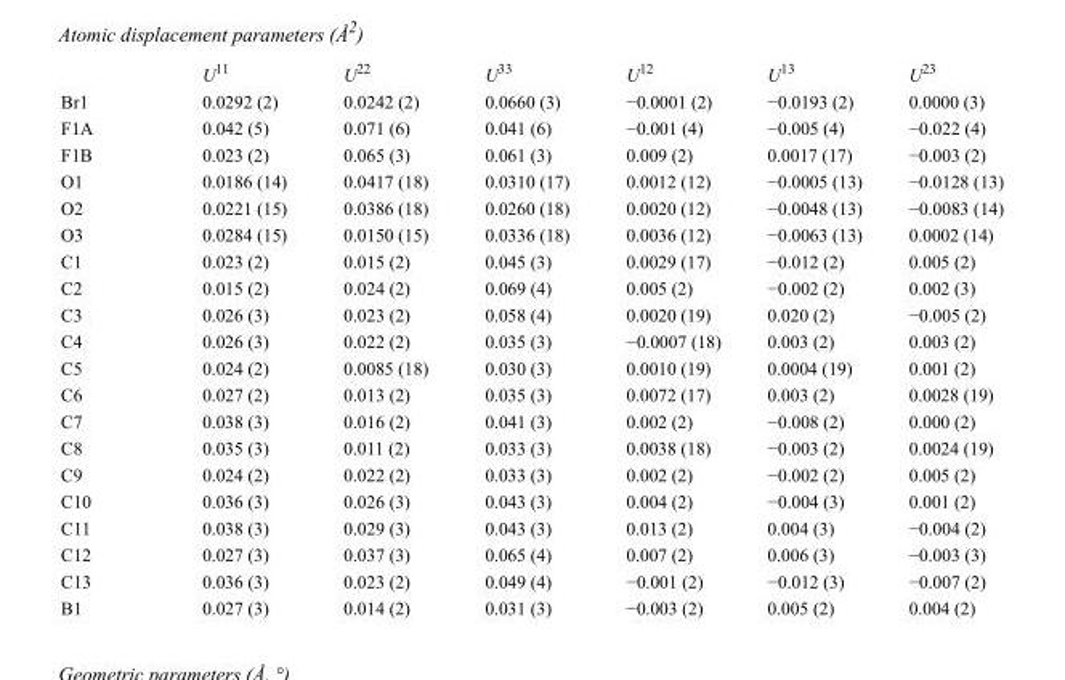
<table><thead><tr><td></td><td>U<sup>11</sup></td><td>U<sup>22</sup></td><td>U<sup>33</sup></td><td>U<sup>12</sup></td><td>U<sup>13</sup></td><td>U<sup>23</sup></td></tr></thead><tbody><tr><td>Br1</td><td>0.0292 (2)</td><td>0.0242 (2)</td><td>0.0660 (3)</td><td>−0.0001 (2)</td><td>−0.0193 (2)</td><td>0.0000 (3)</td></tr><tr><td>F1A</td><td>0.042 (5)</td><td>0.071 (6)</td><td>0.041 (6)</td><td>−0.001 (4)</td><td>−0.005 (4)</td><td>−0.022 (4)</td></tr><tr><td>F1B</td><td>0.023 (2)</td><td>0.065 (3)</td><td>0.061 (3)</td><td>0.009 (2)</td><td>0.0017 (17)</td><td>−0.003 (2)</td></tr><tr><td>O1</td><td>0.0186 (14)</td><td>0.0417 (18)</td><td>0.0310 (17)</td><td>0.0012 (12)</td><td>−0.0005 (13)</td><td>−0.0128 (13)</td></tr><tr><td>O2</td><td>0.0221 (15)</td><td>0.0386 (18)</td><td>0.0260 (18)</td><td>0.0020 (12)</td><td>−0.0048 (13)</td><td>−0.0083 (14)</td></tr><tr><td>O3</td><td>0.0284 (15)</td><td>0.0150 (15)</td><td>0.0336 (18)</td><td>0.0036 (12)</td><td>−0.0063 (13)</td><td>0.0002 (14)</td></tr><tr><td>C1</td><td>0.023 (2)</td><td>0.015 (2)</td><td>0.045 (3)</td><td>0.0029 (17)</td><td>−0.012 (2)</td><td>0.005 (2)</td></tr><tr><td>C2</td><td>0.015 (2)</td><td>0.024 (2)</td><td>0.069 (4)</td><td>0.005 (2)</td><td>−0.002 (2)</td><td>0.002 (3)</td></tr><tr><td>C3</td><td>0.026 (3)</td><td>0.023 (2)</td><td>0.058 (4)</td><td>0.0020 (19)</td><td>0.020 (2)</td><td>−0.005 (2)</td></tr><tr><td>C4</td><td>0.026 (3)</td><td>0.022 (2)</td><td>0.035 (3)</td><td>−0.0007 (18)</td><td>0.003 (2)</td><td>0.003 (2)</td></tr><tr><td>C5</td><td>0.024 (2)</td><td>0.0085 (18)</td><td>0.030 (3)</td><td>0.0010 (19)</td><td>0.0004 (19)</td><td>0.001 (2)</td></tr><tr><td>C6</td><td>0.027 (2)</td><td>0.013 (2)</td><td>0.035 (3)</td><td>0.0072 (17)</td><td>0.003 (2)</td><td>0.0028 (19)</td></tr><tr><td>C7</td><td>0.038 (3)</td><td>0.016 (2)</td><td>0.041 (3)</td><td>0.002 (2)</td><td>−0.008 (2)</td><td>0.000 (2)</td></tr><tr><td>C8</td><td>0.035 (3)</td><td>0.011 (2)</td><td>0.033 (3)</td><td>0.0038 (18)</td><td>−0.003 (2)</td><td>0.0024 (19)</td></tr><tr><td>C9</td><td>0.024 (2)</td><td>0.022 (2)</td><td>0.033 (3)</td><td>0.002 (2)</td><td>−0.002 (2)</td><td>0.005 (2)</td></tr><tr><td>C10</td><td>0.036 (3)</td><td>0.026 (3)</td><td>0.043 (3)</td><td>0.004 (2)</td><td>−0.004 (3)</td><td>0.001 (2)</td></tr><tr><td>C11</td><td>0.038 (3)</td><td>0.029 (3)</td><td>0.043 (3)</td><td>0.013 (2)</td><td>0.004 (3)</td><td>−0.004 (2)</td></tr><tr><td>C12</td><td>0.027 (3)</td><td>0.037 (3)</td><td>0.065 (4)</td><td>0.007 (2)</td><td>0.006 (3)</td><td>−0.003 (3)</td></tr><tr><td>C13</td><td>0.036 (3)</td><td>0.023 (2)</td><td>0.049 (4)</td><td>−0.001 (2)</td><td>−0.012 (3)</td><td>−0.007 (2)</td></tr><tr><td>B1</td><td>0.027 (3)</td><td>0.014 (2)</td><td>0.031 (3)</td><td>−0.003 (2)</td><td>0.005 (2)</td><td>0.004 (2)</td></tr></tbody></table>